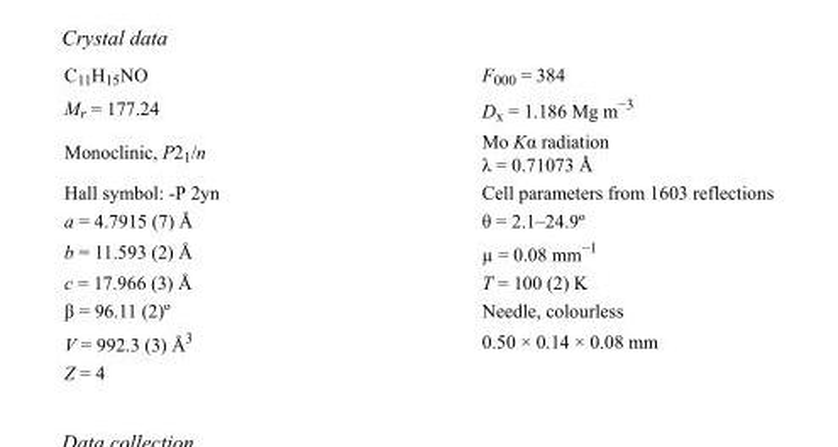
<table><tbody><tr><td>C<sub>11</sub>H<sub>15</sub>NO</td><td>F<sub>000</sub> = 384</td></tr><tr><td>M<sub>r</sub> = 177.24</td><td>D<sub>x</sub> = 1.186 Mg m<sup>−3</sup></td></tr><tr><td>Monoclinic, P2<sub>1</sub>/n</td><td>Mo Kα radiation λ = 0.71073 Å</td></tr><tr><td>Hall symbol: -P 2yn</td><td>Cell parameters from 1603 reflections</td></tr><tr><td>a = 4.7915 (7) Å</td><td>θ = 2.1–24.9º</td></tr><tr><td>b = 11.593 (2) Å</td><td>µ = 0.08 mm<sup>−1</sup></td></tr><tr><td>c = 17.966 (3) Å</td><td>T = 100 (2) K</td></tr><tr><td>β = 96.11 (2)º</td><td>Needle, colourless</td></tr><tr><td>V = 992.3 (3) Å<sup>3</sup></td><td>0.50 × 0.14 × 0.08 mm</td></tr><tr><td>Z = 4</td><td></td></tr></tbody></table>